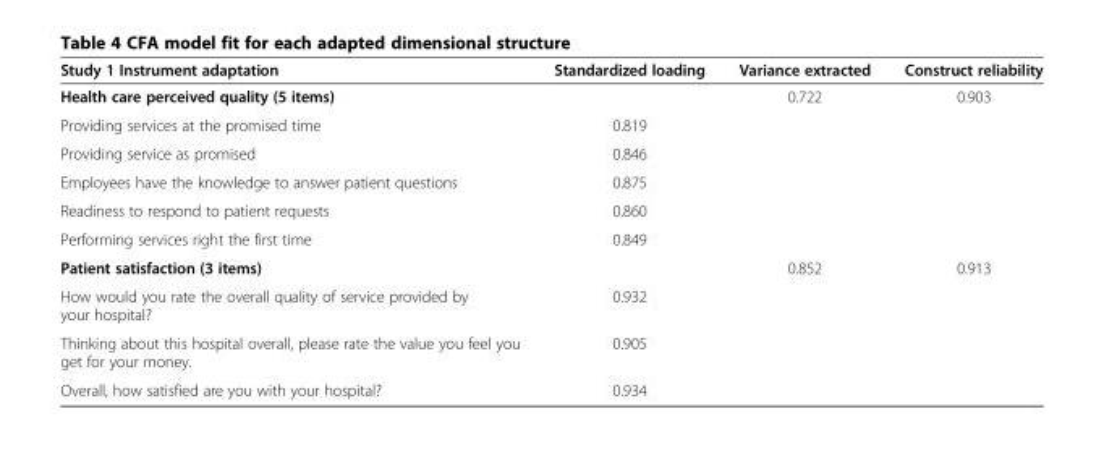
<table><thead><tr><td>Study 1 Instrument adaptation</td><td>Standardized loading</td><td>Variance extracted</td><td>Construct reliability</td></tr></thead><tbody><tr><td>Health care perceived quality (5 items)</td><td></td><td>0.722</td><td>0.903</td></tr><tr><td>Providing services at the promised time</td><td>0.819</td><td></td><td></td></tr><tr><td>Providing service as promised</td><td>0.846</td><td></td><td></td></tr><tr><td>Employees have the knowledge to answer patient questions</td><td>0.875</td><td></td><td></td></tr><tr><td>Readiness to respond to patient requests</td><td>0.860</td><td></td><td></td></tr><tr><td>Performing services right the first time</td><td>0.849</td><td></td><td></td></tr><tr><td>Patient satisfaction (3 items)</td><td></td><td>0.852</td><td>0.913</td></tr><tr><td>How would you rate the overall quality of service provided by your hospital?</td><td>0.932</td><td></td><td></td></tr><tr><td>Thinking about this hospital overall, please rate the value you feel you get for your money.</td><td>0.905</td><td></td><td></td></tr><tr><td>Overall, how satisfied are you with your hospital?</td><td>0.934</td><td></td><td></td></tr></tbody></table>